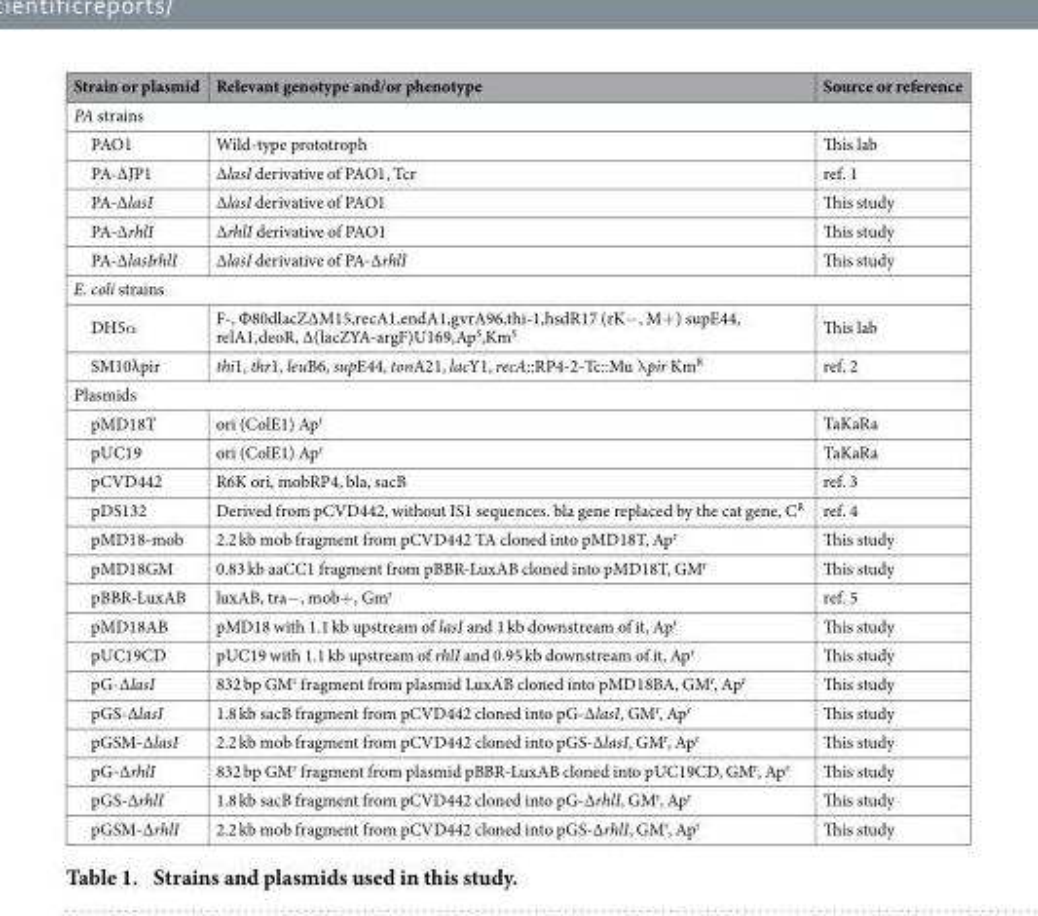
<table><thead><tr><td>Strain or plasmid</td><td>Relevant genotype and/or phenotype</td><td>Source or reference</td></tr></thead><tbody><tr><td colspan="3">PA strains</td></tr><tr><td>PAO1</td><td>Wild-type prototroph</td><td>This lab</td></tr><tr><td>PA-ΔJP1</td><td>ΔlasI derivative of PAO1, Tcr</td><td>ref. 1</td></tr><tr><td>PA-ΔlasI</td><td>ΔlasI derivative of PAO1</td><td>This study</td></tr><tr><td>PA-ΔrhlI</td><td>ΔrhlI derivative of PAO1</td><td>This study</td></tr><tr><td>PA-ΔlasIrhlI</td><td>ΔlasI derivative of PA-ΔrhlI</td><td>This study</td></tr><tr><td colspan="3">E. coli strains</td></tr><tr><td>DH5α</td><td>F-, Φ80dlacZΔM15,recA1,endA1,gvrA96,thi-1,hsdR17 (rK−, M+ ) supE44, relA1,deoR, Δ(lacZYA-argF)U169,Ap<sup>S</sup>,Km<sup>S</sup></td><td>This lab</td></tr><tr><td>SM10λpir</td><td>thi1, thr1, leuB6, supE44, tonA21, lacY1, recA::RP4-2-Tc::Mu λ pir Km<sup>R</sup></td><td>ref. 2</td></tr><tr><td colspan="3">Plasmids</td></tr><tr><td>pMD18T</td><td>ori (ColE1) Ap<sup>r</sup></td><td>TaKaRa</td></tr><tr><td>pUC19</td><td>ori (ColE1) Ap<sup>r</sup></td><td>TaKaRa</td></tr><tr><td>pCVD442</td><td>R6K ori, mobRP4, bla, sacB</td><td>ref. 3</td></tr><tr><td>pDS132</td><td>Derived from pCVD442, without IS1 sequences. bla gene replaced by the cat gene, C<sup>R</sup></td><td>ref. 4</td></tr><tr><td>pMD18-mob</td><td>2.2 kb mob fragment from pCVD442 TA cloned into pMD18T, Ap<sup>r</sup></td><td>This study</td></tr><tr><td>pMD18GM</td><td>0.83 kb aaCC1 fragment from pBBR-LuxAB cloned into pMD18T, GM<sup>r</sup></td><td>This study</td></tr><tr><td>pBBR-LuxAB</td><td>luxAB, tra−, mob+ , Gm<sup>r</sup></td><td>ref. 5</td></tr><tr><td>pMD18AB</td><td>pMD18 with 1.1 kb upstream of lasI and 1 kb downstream of it, Ap<sup>r</sup></td><td>This study</td></tr><tr><td>pUC19CD</td><td>pUC19 with 1.1 kb upstream of rhlI and 0.95 kb downstream of it, Ap<sup>r</sup></td><td>This study</td></tr><tr><td>pG-ΔlasI</td><td>832 bp GM<sup>r</sup> fragment from plasmid LuxAB cloned into pMD18BA, GM<sup>r</sup>, Ap<sup>r</sup></td><td>This study</td></tr><tr><td>pGS-ΔlasI</td><td>1.8 kb sacB fragment from pCVD442 cloned into pG-ΔlasI, GM<sup>r</sup>, Ap<sup>r</sup></td><td>This study</td></tr><tr><td>pGSM-ΔlasI</td><td>2.2 kb mob fragment from pCVD442 cloned into pGS-ΔlasI, GM<sup>r</sup>, Ap<sup>r</sup></td><td>This study</td></tr><tr><td>pG-ΔrhlI</td><td>832 bp GM<sup>r</sup> fragment from plasmid pBBR-LuxAB cloned into pUC19CD, GM<sup>r</sup>, Ap<sup>r</sup></td><td>This study</td></tr><tr><td>pGS-ΔrhlI</td><td>1.8 kb sacB fragment from pCVD442 cloned into pG-ΔrhlI, GM<sup>r</sup>, Ap<sup>r</sup></td><td>This study</td></tr><tr><td>pGSM-ΔrhlI</td><td>2.2 kb mob fragment from pCVD442 cloned into pGS-ΔrhlI, GM<sup>r</sup>, Ap<sup>r</sup></td><td>This study</td></tr></tbody></table>